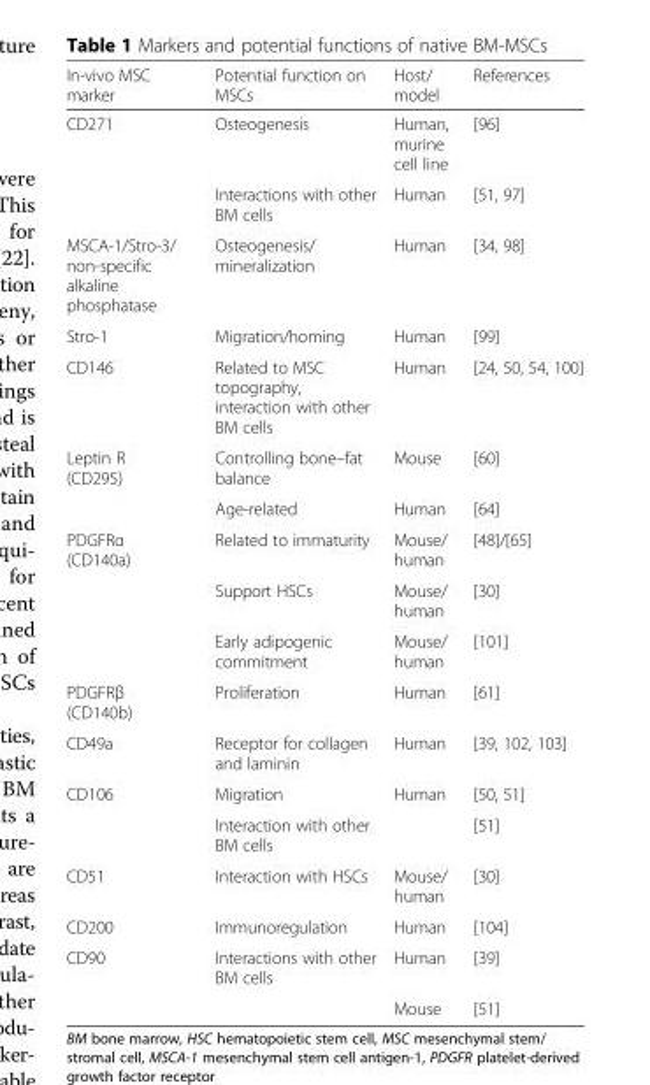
<table><thead><tr><td>In-vivo MSC marker</td><td>Potential function on MSCs</td><td>Host/ model</td><td>References</td></tr></thead><tbody><tr><td rowspan="2">CD271</td><td>Osteogenesis</td><td>Human, murine cell line</td><td>[96]</td></tr><tr><td>Interactions with other BM cells</td><td>Human</td><td>[51, 97]</td></tr><tr><td>MSCA-1/Stro-3/ non-specific alkaline phosphatase</td><td>Osteogenesis/ mineralization</td><td>Human</td><td>[34, 98]</td></tr><tr><td>Stro-1</td><td>Migration/homing</td><td>Human</td><td>[99]</td></tr><tr><td>CD146</td><td>Related to MSC topography, interaction with other BM cells</td><td>Human</td><td>[24, 50, 54, 100]</td></tr><tr><td rowspan="2">Leptin R (CD295)</td><td>Controlling bone–fat balance</td><td>Mouse</td><td>[60]</td></tr><tr><td>Age-related</td><td>Human</td><td>[64]</td></tr><tr><td rowspan="3">PDGFRα (CD140a)</td><td>Related to immaturity</td><td>Mouse/ human</td><td>[48]/[65]</td></tr><tr><td>Support HSCs</td><td>Mouse/ human</td><td>[30]</td></tr><tr><td>Early adipogenic commitment</td><td>Mouse/ human</td><td>[101]</td></tr><tr><td>PDGFRβ (CD140b)</td><td>Proliferation</td><td>Human</td><td>[61]</td></tr><tr><td>CD49a</td><td>Receptor for collagen and laminin</td><td>Human</td><td>[39, 102, 103]</td></tr><tr><td rowspan="2">CD106</td><td>Migration</td><td>Human</td><td>[50, 51]</td></tr><tr><td>Interaction with other BM cells</td><td></td><td>[51]</td></tr><tr><td>CD51</td><td>Interaction with HSCs</td><td>Mouse/ human</td><td>[30]</td></tr><tr><td>CD200</td><td>Immunoregulation</td><td>Human</td><td>[104]</td></tr><tr><td rowspan="2">CD90</td><td>Interactions with other BM cells</td><td>Human</td><td>[39]</td></tr><tr><td></td><td>Mouse</td><td>[51]</td></tr></tbody></table>